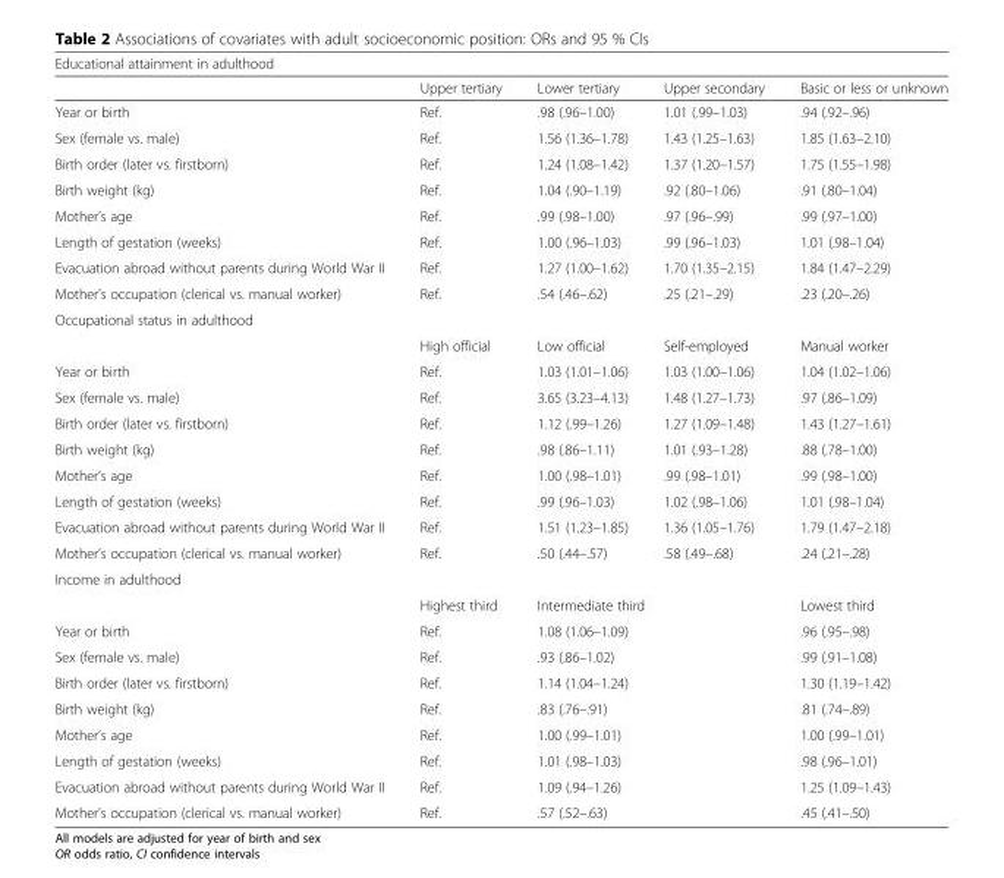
<table><thead><tr><td colspan="5">Educational attainment in adulthood</td></tr><tr><td></td><td>Upper tertiary</td><td>Lower tertiary</td><td>Upper secondary</td><td>Basic or less or unknown</td></tr></thead><tbody><tr><td>Year or birth</td><td>Ref.</td><td>.98 (.96–1.00)</td><td>1.01 (.99–1.03)</td><td>.94 (.92–.96)</td></tr><tr><td>Sex (female vs. male)</td><td>Ref.</td><td>1.56 (1.36–1.78)</td><td>1.43 (1.25–1.63)</td><td>1.85 (1.63–2.10)</td></tr><tr><td>Birth order (later vs. firstborn)</td><td>Ref.</td><td>1.24 (1.08–1.42)</td><td>1.37 (1.20–1.57)</td><td>1.75 (1.55–1.98)</td></tr><tr><td>Birth weight (kg)</td><td>Ref.</td><td>1.04 (.90–1.19)</td><td>.92 (.80–1.06)</td><td>.91 (.80–1.04)</td></tr><tr><td>Mother’s age</td><td>Ref.</td><td>.99 (.98–1.00)</td><td>.97 (.96–.99)</td><td>.99 (.97–1.00)</td></tr><tr><td>Length of gestation (weeks)</td><td>Ref.</td><td>1.00 (.96–1.03)</td><td>.99 (.96–1.03)</td><td>1.01 (.98–1.04)</td></tr><tr><td>Evacuation abroad without parents during World War II</td><td>Ref.</td><td>1.27 (1.00–1.62)</td><td>1.70 (1.35–2.15)</td><td>1.84 (1.47–2.29)</td></tr><tr><td>Mother’s occupation (clerical vs. manual worker)</td><td>Ref.</td><td>.54 (.46–.62)</td><td>.25 (.21–.29)</td><td>.23 (.20–.26)</td></tr><tr><td colspan="5">Occupational status in adulthood</td></tr><tr><td></td><td>High official</td><td>Low official</td><td>Self-employed</td><td>Manual worker</td></tr><tr><td>Year or birth</td><td>Ref.</td><td>1.03 (1.01–1.06)</td><td>1.03 (1.00–1.06)</td><td>1.04 (1.02–1.06)</td></tr><tr><td>Sex (female vs. male)</td><td>Ref.</td><td>3.65 (3.23–4.13)</td><td>1.48 (1.27–1.73)</td><td>.97 (.86–1.09)</td></tr><tr><td>Birth order (later vs. firstborn)</td><td>Ref.</td><td>1.12 (.99–1.26)</td><td>1.27 (1.09–1.48)</td><td>1.43 (1.27–1.61)</td></tr><tr><td>Birth weight (kg)</td><td>Ref.</td><td>.98 (.86–1.11)</td><td>1.01 (.93–1.28)</td><td>.88 (.78–1.00)</td></tr><tr><td>Mother’s age</td><td>Ref.</td><td>1.00 (.98–1.01)</td><td>.99 (.98–1.01)</td><td>.99 (.98–1.00)</td></tr><tr><td>Length of gestation (weeks)</td><td>Ref.</td><td>.99 (.96–1.03)</td><td>1.02 (.98–1.06)</td><td>1.01 (.98–1.04)</td></tr><tr><td>Evacuation abroad without parents during World War II</td><td>Ref.</td><td>1.51 (1.23–1.85)</td><td>1.36 (1.05–1.76)</td><td>1.79 (1.47–2.18)</td></tr><tr><td>Mother’s occupation (clerical vs. manual worker)</td><td>Ref.</td><td>.50 (.44–.57)</td><td>.58 (.49–.68)</td><td>.24 (.21–.28)</td></tr><tr><td colspan="5">Income in adulthood</td></tr><tr><td></td><td>Highest third</td><td colspan="2">Intermediate third</td><td>Lowest third</td></tr><tr><td>Year or birth</td><td>Ref.</td><td colspan="2">1.08 (1.06–1.09)</td><td>.96 (.95–.98)</td></tr><tr><td>Sex (female vs. male)</td><td>Ref.</td><td colspan="2">.93 (.86–1.02)</td><td>.99 (.91–1.08)</td></tr><tr><td>Birth order (later vs. firstborn)</td><td>Ref.</td><td colspan="2">1.14 (1.04–1.24)</td><td>1.30 (1.19–1.42)</td></tr><tr><td>Birth weight (kg)</td><td>Ref.</td><td colspan="2">.83 (.76–.91)</td><td>.81 (.74–.89)</td></tr><tr><td>Mother’s age</td><td>Ref.</td><td colspan="2">1.00 (.99–1.01)</td><td>1.00 (.99–1.01)</td></tr><tr><td>Length of gestation (weeks)</td><td>Ref.</td><td colspan="2">1.01 (.98–1.03)</td><td>.98 (.96–1.01)</td></tr><tr><td>Evacuation abroad without parents during World War II</td><td>Ref.</td><td colspan="2">1.09 (.94–1.26)</td><td>1.25 (1.09–1.43)</td></tr><tr><td>Mother’s occupation (clerical vs. manual worker)</td><td>Ref.</td><td colspan="2">.57 (.52–.63)</td><td>.45 (.41–.50)</td></tr></tbody></table>